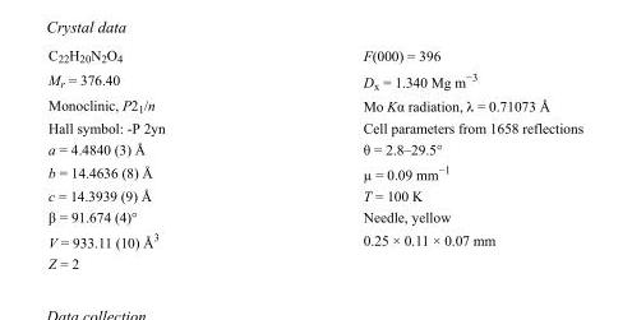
<table><tbody><tr><td>C<sub>22</sub>H<sub>20</sub>N<sub>2</sub>O<sub>4</sub></td><td>F(000) = 396</td></tr><tr><td>M<sub>r</sub> = 376.40</td><td>D<sub>x</sub> = 1.340 Mg m<sup>−3</sup></td></tr><tr><td>Monoclinic, P2<sub>1</sub>/n</td><td>Mo Kα radiation, λ = 0.71073 Å</td></tr><tr><td>Hall symbol: -P 2yn</td><td>Cell parameters from 1658 reflections</td></tr><tr><td>a = 4.4840 (3) Å</td><td>θ = 2.8–29.5°</td></tr><tr><td>b = 14.4636 (8) Å</td><td>µ = 0.09 mm<sup>−1</sup></td></tr><tr><td>c = 14.3939 (9) Å</td><td>T = 100 K</td></tr><tr><td>β = 91.674 (4)°</td><td>Needle, yellow</td></tr><tr><td>V = 933.11 (10) Å<sup>3</sup></td><td>0.25 × 0.11 × 0.07 mm</td></tr><tr><td>Z = 2</td><td></td></tr></tbody></table>